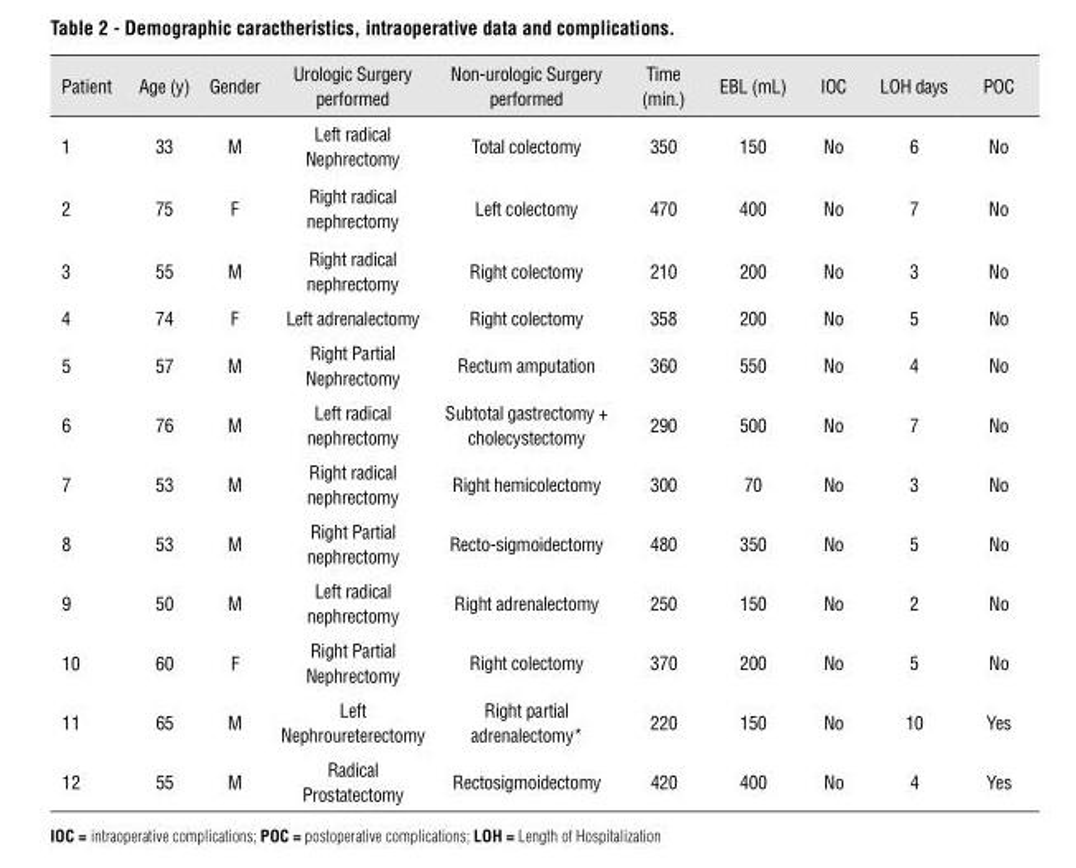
<table><thead><tr><td>Patient</td><td>Age (y)</td><td>Gender</td><td>Urologic Surgery performed</td><td>Non-urologic Surgery performed</td><td>Time (min.)</td><td>EBL (mL)</td><td>IOC</td><td>LOH days</td><td>POC</td></tr></thead><tbody><tr><td>1</td><td>33</td><td>M</td><td>Left radical Nephrectomy</td><td>Total colectomy</td><td>350</td><td>150</td><td>No</td><td>6</td><td>No</td></tr><tr><td>2</td><td>75</td><td>F</td><td>Right radical nephrectomy</td><td>Left colectomy</td><td>470</td><td>400</td><td>No</td><td>7</td><td>No</td></tr><tr><td>3</td><td>55</td><td>M</td><td>Right radical nephrectomy</td><td>Right colectomy</td><td>210</td><td>200</td><td>No</td><td>3</td><td>No</td></tr><tr><td>4</td><td>74</td><td>F</td><td>Left adrenalectomy</td><td>Right colectomy</td><td>358</td><td>200</td><td>No</td><td>5</td><td>No</td></tr><tr><td>5</td><td>57</td><td>M</td><td>Right Partial Nephrectomy</td><td>Rectum amputation</td><td>360</td><td>550</td><td>No</td><td>4</td><td>No</td></tr><tr><td>6</td><td>76</td><td>M</td><td>Left radical nephrectomy</td><td>Subtotal gastrectomy + cholecystectomy</td><td>290</td><td>500</td><td>No</td><td>7</td><td>No</td></tr><tr><td>7</td><td>53</td><td>M</td><td>Right radical nephrectomy</td><td>Right hemicolectomy</td><td>300</td><td>70</td><td>No</td><td>3</td><td>No</td></tr><tr><td>8</td><td>53</td><td>M</td><td>Right Partial nephrectomy</td><td>Recto-sigmoidectomy</td><td>480</td><td>350</td><td>No</td><td>5</td><td>No</td></tr><tr><td>9</td><td>50</td><td>M</td><td>Left radical nephrectomy</td><td>Right adrenalectomy</td><td>250</td><td>150</td><td>No</td><td>2</td><td>No</td></tr><tr><td>10</td><td>60</td><td>F</td><td>Right Partial Nephrectomy</td><td>Right colectomy</td><td>370</td><td>200</td><td>No</td><td>5</td><td>No</td></tr><tr><td>11</td><td>65</td><td>M</td><td>Left Nephroureterectomy</td><td>Right partial adrenalectomy*</td><td>220</td><td>150</td><td>No</td><td>10</td><td>Yes</td></tr><tr><td>12</td><td>55</td><td>M</td><td>Radical Prostatectomy</td><td>Rectosigmoidectomy</td><td>420</td><td>400</td><td>No</td><td>4</td><td>Yes</td></tr></tbody></table>